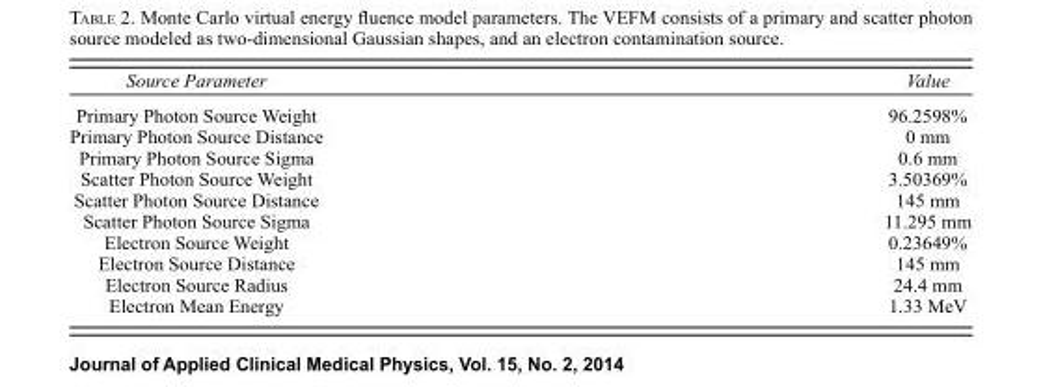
<table><thead><tr><td>Source Parameter</td><td>Value</td></tr></thead><tbody><tr><td>Primary Photon Source Weight</td><td>96.2598%</td></tr><tr><td>Primary Photon Source Distance</td><td>0 mm</td></tr><tr><td>Primary Photon Source Sigma</td><td>0.6 mm</td></tr><tr><td>Scatter Photon Source Weight</td><td>3.50369%</td></tr><tr><td>Scatter Photon Source Distance</td><td>145 mm</td></tr><tr><td>Scatter Photon Source Sigma</td><td>11.295 mm</td></tr><tr><td>Electron Source Weight</td><td>0.23649%</td></tr><tr><td>Electron Source Distance</td><td>145 mm</td></tr><tr><td>Electron Source Radius</td><td>24.4 mm</td></tr><tr><td>Electron Mean Energy</td><td>1.33 MeV</td></tr></tbody></table>